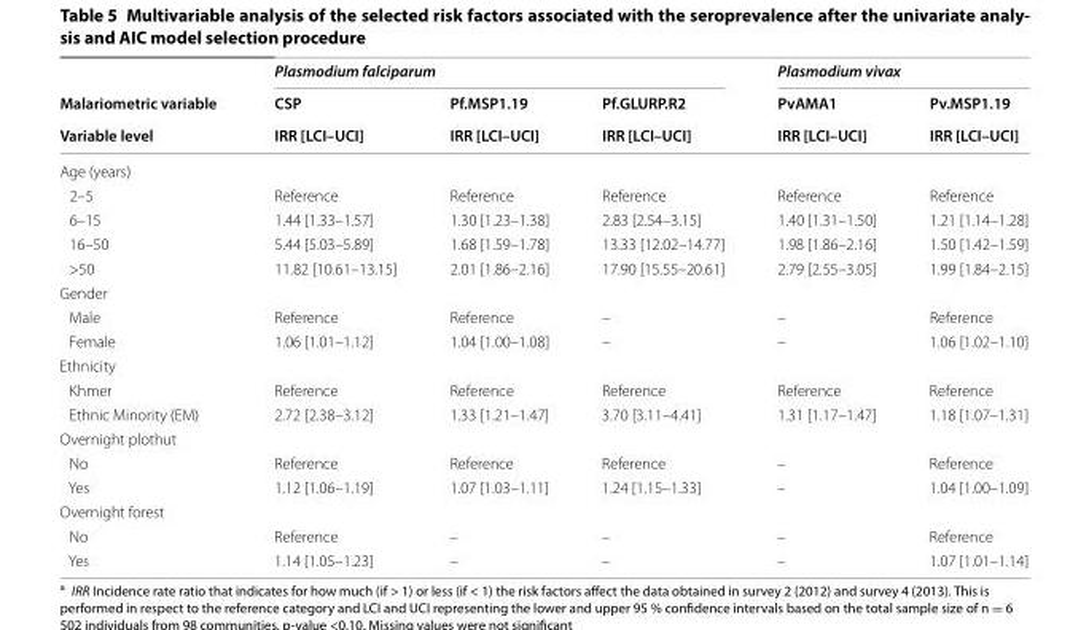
<table><thead><tr><td rowspan="3">Malariometric variable Variable level</td><td colspan="3">Plasmodium falciparum</td><td colspan="2">Plasmodium vivax</td></tr><tr><td rowspan="2">CSP IRR [LCI–UCI]</td><td rowspan="2">Pf.MSP1.19 IRR [LCI–UCI]</td><td rowspan="2">Pf.GLURP.R2 IRR [LCI–UCI]</td><td rowspan="2">PvAMA1 IRR [LCI–UCI]</td><td rowspan="2">Pv.MSP1.19 IRR [LCI–UCI]</td></tr><tr></tr></thead><tbody><tr><td colspan="6">Age (years)</td></tr><tr><td>2–5</td><td>Reference</td><td>Reference</td><td>Reference</td><td>Reference</td><td>Reference</td></tr><tr><td>6–15</td><td>1.44 [1.33–1.57]</td><td>1.30 [1.23–1.38]</td><td>2.83 [2.54–3.15]</td><td>1.40 [1.31–1.50]</td><td>1.21 [1.14–1.28]</td></tr><tr><td>16–50</td><td>5.44 [5.03–5.89]</td><td>1.68 [1.59–1.78]</td><td>13.33 [12.02–14.77]</td><td>1.98 [1.86–2.16]</td><td>1.50 [1.42–1.59]</td></tr><tr><td>&gt;50</td><td>11.82 [10.61–13.15]</td><td>2.01 [1.86–2.16]</td><td>17.90 [15.55–20.61]</td><td>2.79 [2.55–3.05]</td><td>1.99 [1.84–2.15]</td></tr><tr><td colspan="6">Gender</td></tr><tr><td>Male</td><td>Reference</td><td>Reference</td><td>–</td><td>–</td><td>Reference</td></tr><tr><td>Female</td><td>1.06 [1.01–1.12]</td><td>1.04 [1.00–1.08]</td><td>–</td><td>–</td><td>1.06 [1.02–1.10]</td></tr><tr><td colspan="6">Ethnicity</td></tr><tr><td>Khmer</td><td>Reference</td><td>Reference</td><td>Reference</td><td>Reference</td><td>Reference</td></tr><tr><td>Ethnic Minority (EM)</td><td>2.72 [2.38–3.12]</td><td>1.33 [1.21–1.47]</td><td>3.70 [3.11–4.41]</td><td>1.31 [1.17–1.47]</td><td>1.18 [1.07–1.31]</td></tr><tr><td colspan="6">Overnight plothut</td></tr><tr><td>No</td><td>Reference</td><td>Reference</td><td>Reference</td><td>–</td><td>Reference</td></tr><tr><td>Yes</td><td>1.12 [1.06–1.19]</td><td>1.07 [1.03–1.11]</td><td>1.24 [1.15–1.33]</td><td>–</td><td>1.04 [1.00–1.09]</td></tr><tr><td colspan="6">Overnight forest</td></tr><tr><td>No</td><td>Reference</td><td>–</td><td>–</td><td>–</td><td>Reference</td></tr><tr><td>Yes</td><td>1.14 [1.05–1.23]</td><td>–</td><td>–</td><td>–</td><td>1.07 [1.01–1.14]</td></tr></tbody></table>